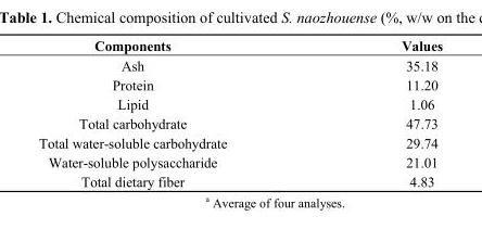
<table><thead><tr><td>Components</td><td>Values</td></tr></thead><tbody><tr><td>Ash</td><td>35.18</td></tr><tr><td>Protein</td><td>11.20</td></tr><tr><td>Lipid</td><td>1.06</td></tr><tr><td>Total carbohydrate</td><td>47.73</td></tr><tr><td>Total water-soluble carbohydrate</td><td>29.74</td></tr><tr><td>Water-soluble polysaccharide</td><td>21.01</td></tr><tr><td>Total dietary fiber</td><td>4.83</td></tr></tbody></table>